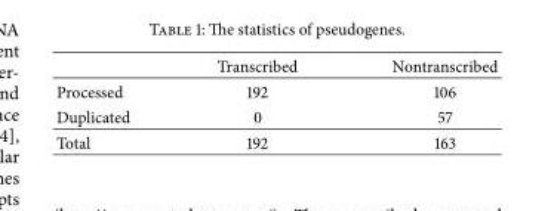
<table><thead><tr><td></td><td>Transcribed</td><td>Nontranscribed</td></tr></thead><tbody><tr><td>Processed</td><td>192</td><td>106</td></tr><tr><td>Duplicated</td><td>0</td><td>57</td></tr><tr><td>Total</td><td>192</td><td>163</td></tr></tbody></table>